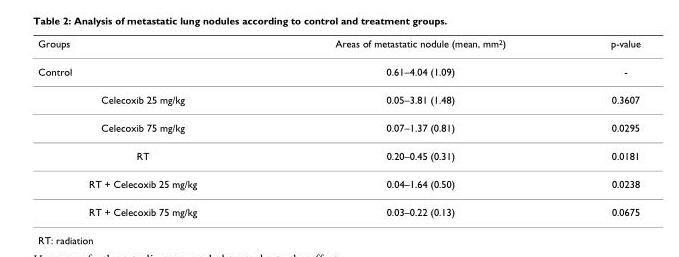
<table><thead><tr><td>Groups</td><td>Areas of metastatic nodule (mean, mm2)</td><td>p-value</td></tr></thead><tbody><tr><td>Control</td><td>0.61–4.04 (1.09)</td><td>-</td></tr><tr><td>Celecoxib 25 mg/kg</td><td>0.05–3.81 (1.48)</td><td>0.3607</td></tr><tr><td>Celecoxib 75 mg/kg</td><td>0.07–1.37 (0.81)</td><td>0.0295</td></tr><tr><td>RT</td><td>0.20–0.45 (0.31)</td><td>0.0181</td></tr><tr><td>RT + Celecoxib 25 mg/kg</td><td>0.04–1.64 (0.50)</td><td>0.0238</td></tr><tr><td>RT + Celecoxib 75 mg/kg</td><td>0.03–0.22 (0.13)</td><td>0.0675</td></tr></tbody></table>